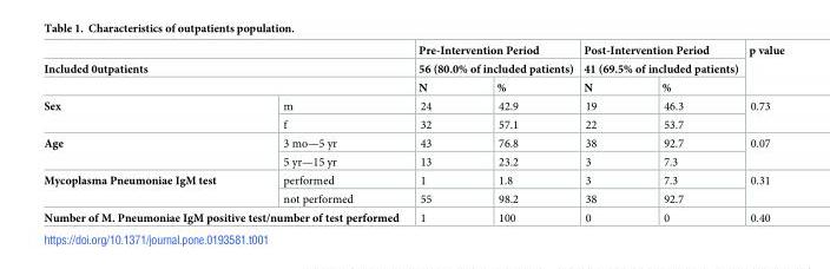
<table><thead><tr><td></td><td></td><td rowspan="2" colspan="2">Pre-Intervention Period 56 (80.0% of included patients)</td><td rowspan="2" colspan="2">Post-Intervention Period 41 (69.5% of included patients)</td><td rowspan="3">p value</td></tr><tr><td colspan="2">Included 0utpatients</td></tr><tr><td></td><td></td><td>N</td><td>%</td><td>N</td><td>%</td></tr></thead><tbody><tr><td rowspan="2">Sex</td><td>m</td><td>24</td><td>42.9</td><td>19</td><td>46.3</td><td rowspan="2">0.73</td></tr><tr><td>f</td><td>32</td><td>57.1</td><td>22</td><td>53.7</td></tr><tr><td rowspan="2">Age</td><td>3 mo—5 yr</td><td>43</td><td>76.8</td><td>38</td><td>92.7</td><td rowspan="2">0.07</td></tr><tr><td>5 yr—15 yr</td><td>13</td><td>23.2</td><td>3</td><td>7.3</td></tr><tr><td rowspan="2">Mycoplasma Pneumoniae IgM test</td><td>performed</td><td>1</td><td>1.8</td><td>3</td><td>7.3</td><td rowspan="2">0.31</td></tr><tr><td>not performed</td><td>55</td><td>98.2</td><td>38</td><td>92.7</td></tr><tr><td colspan="2">Number of M. Pneumoniae IgM positive test/number of test performed</td><td>1</td><td>100</td><td>0</td><td>0</td><td>0.40</td></tr></tbody></table>